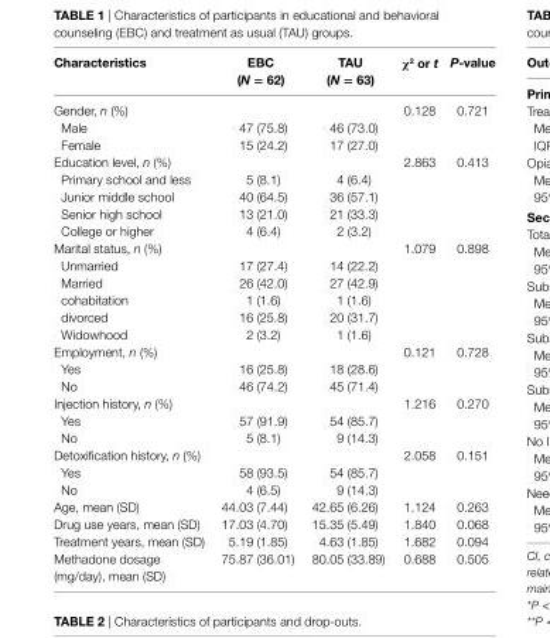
<table><thead><tr><td>Characteristics</td><td>EBC (N = 62)</td><td>TaU (N = 63)</td><td>χ<sup>2</sup> or t</td><td>P-value</td></tr></thead><tbody><tr><td>Gender, n (%)</td><td></td><td></td><td>0.128</td><td>0.721</td></tr><tr><td>Male</td><td>47 (75.8)</td><td>46 (73.0)</td><td></td><td></td></tr><tr><td>Female</td><td>15 (24.2)</td><td>17 (27.0)</td><td></td><td></td></tr><tr><td>Education level, n (%)</td><td></td><td></td><td>2.863</td><td>0.413</td></tr><tr><td>Primary school and less</td><td>5 (8.1)</td><td>4 (6.4)</td><td></td><td></td></tr><tr><td>Junior middle school</td><td>40 (64.5)</td><td>36 (57.1)</td><td></td><td></td></tr><tr><td>Senior high school</td><td>13 (21.0)</td><td>21 (33.3)</td><td></td><td></td></tr><tr><td>College or higher</td><td>4 (6.4)</td><td>2 (3.2)</td><td></td><td></td></tr><tr><td>Marital status, n (%)</td><td></td><td></td><td>1.079</td><td>0.898</td></tr><tr><td>Unmarried</td><td>17 (27.4)</td><td>14 (22.2)</td><td></td><td></td></tr><tr><td>Married</td><td>26 (42.0)</td><td>27 (42.9)</td><td></td><td></td></tr><tr><td>cohabitation</td><td>1 (1.6)</td><td>1 (1.6)</td><td></td><td></td></tr><tr><td>divorced</td><td>16 (25.8)</td><td>20 (31.7)</td><td></td><td></td></tr><tr><td>Widowhood</td><td>2 (3.2)</td><td>1 (1.6)</td><td></td><td></td></tr><tr><td>Employment, n (%)</td><td></td><td></td><td>0.121</td><td>0.728</td></tr><tr><td>Yes</td><td>16 (25.8)</td><td>18 (28.6)</td><td></td><td></td></tr><tr><td>No</td><td>46 (74.2)</td><td>45 (71.4)</td><td></td><td></td></tr><tr><td>Injection history, n (%)</td><td></td><td></td><td>1.216</td><td>0.270</td></tr><tr><td>Yes</td><td>57 (91.9)</td><td>54 (85.7)</td><td></td><td></td></tr><tr><td>No</td><td>5 (8.1)</td><td>9 (14.3)</td><td></td><td></td></tr><tr><td>Detoxification history, n (%)</td><td></td><td></td><td>2.058</td><td>0.151</td></tr><tr><td>Yes</td><td>58 (93.5)</td><td>54 (85.7)</td><td></td><td></td></tr><tr><td>No</td><td>4 (6.5)</td><td>9 (14.3)</td><td></td><td></td></tr><tr><td>Age, mean (SD)</td><td>44.03 (7.44)</td><td>42.65 (6.26)</td><td>1.124</td><td>0.263</td></tr><tr><td>Drug use years, mean (SD)</td><td>17.03 (4.70)</td><td>15.35 (5.49)</td><td>1.840</td><td>0.068</td></tr><tr><td>Treatment years, mean (SD)</td><td>5.19 (1.85)</td><td>4.63 (1.85)</td><td>1.682</td><td>0.094</td></tr><tr><td>Methadone dosage (mg/day), mean (SD)</td><td>75.87 (36.01)</td><td>80.05 (33.89)</td><td>0.688</td><td>0.505</td></tr></tbody></table>